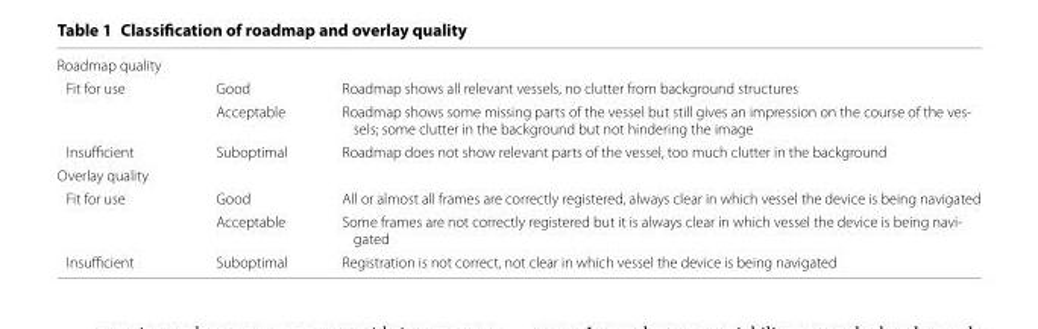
<table><tbody><tr><td colspan="3">Roadmap quality</td></tr><tr><td rowspan="2">Fit for use</td><td>Good</td><td>Roadmap shows all relevant vessels, no clutter from background structures</td></tr><tr><td>Acceptable</td><td>Roadmap shows some missing parts of the vessel but still gives an impression on the course of the ves- sels; some clutter in the background but not hindering the image</td></tr><tr><td>Insufficient</td><td>Suboptimal</td><td>Roadmap does not show relevant parts of the vessel, too much clutter in the background</td></tr><tr><td colspan="3">Overlay quality</td></tr><tr><td rowspan="2">Fit for use</td><td>Good</td><td>All or almost all frames are correctly registered, always clear in which vessel the device is being navigated</td></tr><tr><td>Acceptable</td><td>Some frames are not correctly registered but it is always clear in which vessel the device is being navi- gated</td></tr><tr><td>Insufficient</td><td>Suboptimal</td><td>Registration is not correct, not clear in which vessel the device is being navigated</td></tr></tbody></table>